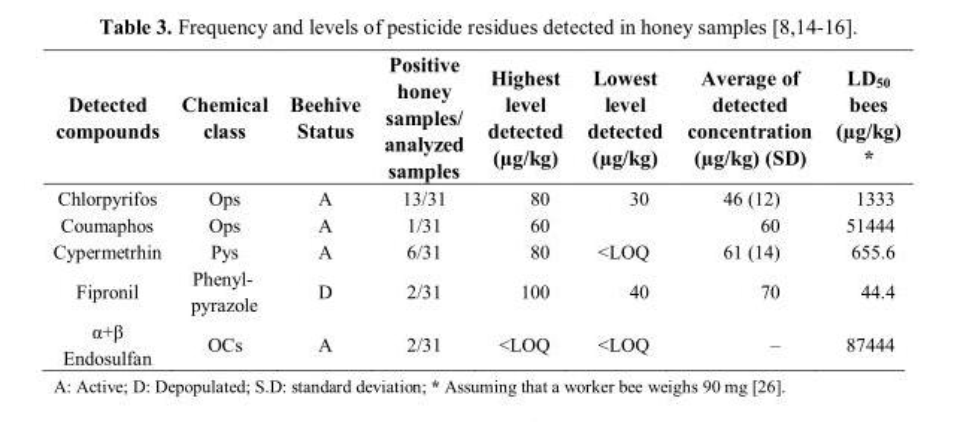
<table><thead><tr><td>Detected compounds</td><td>Chemical class</td><td>Beehive Status</td><td>Positive honey samples/ analyzed samples</td><td>Highest level detected (µg/kg)</td><td>Lowest level detected (µg/kg)</td><td>Average of detected concentration (µg/kg) (SD)</td><td>LD<sub>50</sub> bees (µg/kg) *</td></tr></thead><tbody><tr><td>Chlorpyrifos</td><td>Ops</td><td>A</td><td>13/31</td><td>80</td><td>30</td><td>46 (12)</td><td>1333</td></tr><tr><td>Coumaphos</td><td>Ops</td><td>A</td><td>1/31</td><td>60</td><td></td><td>60</td><td>51444</td></tr><tr><td>Cypermetrhin</td><td>Pys</td><td>A</td><td>6/31</td><td>80</td><td>&lt;LOQ</td><td>61 (14)</td><td>655.6</td></tr><tr><td>Fipronil</td><td>Phenyl- pyrazole</td><td>D</td><td>2/31</td><td>100</td><td>40</td><td>70</td><td>44.4</td></tr><tr><td>α+β Endosulfan</td><td>OCs</td><td>A</td><td>2/31</td><td>&lt;LOQ</td><td>&lt;LOQ</td><td>–</td><td>87444</td></tr></tbody></table>